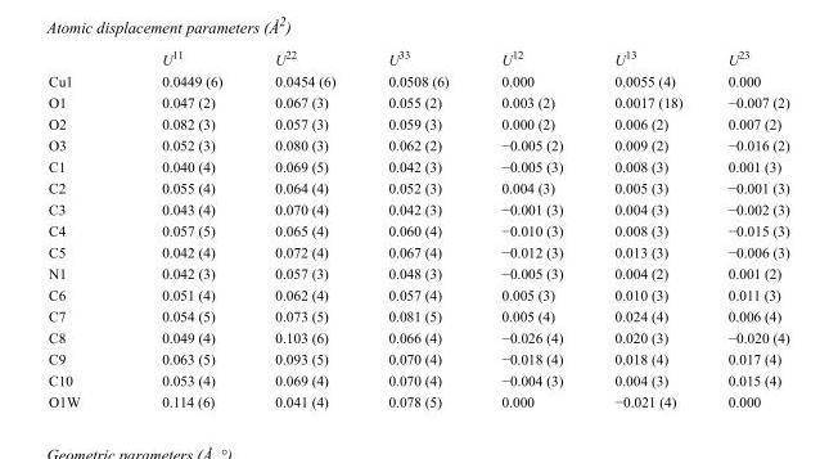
<table><thead><tr><td></td><td>U<sup>11</sup></td><td>U<sup>22</sup></td><td>U<sup>33</sup></td><td>U<sup>12</sup></td><td>U<sup>13</sup></td><td>U<sup>23</sup></td></tr></thead><tbody><tr><td>Cu1</td><td>0.0449 (6)</td><td>0.0454 (6)</td><td>0.0508 (6)</td><td>0.000</td><td>0.0055 (4)</td><td>0.000</td></tr><tr><td>O1</td><td>0.047 (2)</td><td>0.067 (3)</td><td>0.055 (2)</td><td>0.003 (2)</td><td>0.0017 (18)</td><td>−0.007 (2)</td></tr><tr><td>O2</td><td>0.082 (3)</td><td>0.057 (3)</td><td>0.059 (3)</td><td>0.000 (2)</td><td>0.006 (2)</td><td>0.007 (2)</td></tr><tr><td>O3</td><td>0.052 (3)</td><td>0.080 (3)</td><td>0.062 (2)</td><td>−0.005 (2)</td><td>0.009 (2)</td><td>−0.016 (2)</td></tr><tr><td>C1</td><td>0.040 (4)</td><td>0.069 (5)</td><td>0.042 (3)</td><td>−0.005 (3)</td><td>0.008 (3)</td><td>0.001 (3)</td></tr><tr><td>C2</td><td>0.055 (4)</td><td>0.064 (4)</td><td>0.052 (3)</td><td>0.004 (3)</td><td>0.005 (3)</td><td>−0.001 (3)</td></tr><tr><td>C3</td><td>0.043 (4)</td><td>0.070 (4)</td><td>0.042 (3)</td><td>−0.001 (3)</td><td>0.004 (3)</td><td>−0.002 (3)</td></tr><tr><td>C4</td><td>0.057 (5)</td><td>0.065 (4)</td><td>0.060 (4)</td><td>−0.010 (3)</td><td>0.008 (3)</td><td>−0.015 (3)</td></tr><tr><td>C5</td><td>0.042 (4)</td><td>0.072 (4)</td><td>0.067 (4)</td><td>−0.012 (3)</td><td>0.013 (3)</td><td>−0.006 (3)</td></tr><tr><td>N1</td><td>0.042 (3)</td><td>0.057 (3)</td><td>0.048 (3)</td><td>−0.005 (3)</td><td>0.004 (2)</td><td>0.001 (2)</td></tr><tr><td>C6</td><td>0.051 (4)</td><td>0.062 (4)</td><td>0.057 (4)</td><td>0.005 (3)</td><td>0.010 (3)</td><td>0.011 (3)</td></tr><tr><td>C7</td><td>0.054 (5)</td><td>0.073 (5)</td><td>0.081 (5)</td><td>0.005 (4)</td><td>0.024 (4)</td><td>0.006 (4)</td></tr><tr><td>C8</td><td>0.049 (4)</td><td>0.103 (6)</td><td>0.066 (4)</td><td>−0.026 (4)</td><td>0.020 (3)</td><td>−0.020 (4)</td></tr><tr><td>C9</td><td>0.063 (5)</td><td>0.093 (5)</td><td>0.070 (4)</td><td>−0.018 (4)</td><td>0.018 (4)</td><td>0.017 (4)</td></tr><tr><td>C10</td><td>0.053 (4)</td><td>0.069 (4)</td><td>0.070 (4)</td><td>−0.004 (3)</td><td>0.004 (3)</td><td>0.015 (4)</td></tr><tr><td>O1W</td><td>0.114 (6)</td><td>0.041 (4)</td><td>0.078 (5)</td><td>0.000</td><td>−0.021 (4)</td><td>0.000</td></tr></tbody></table>